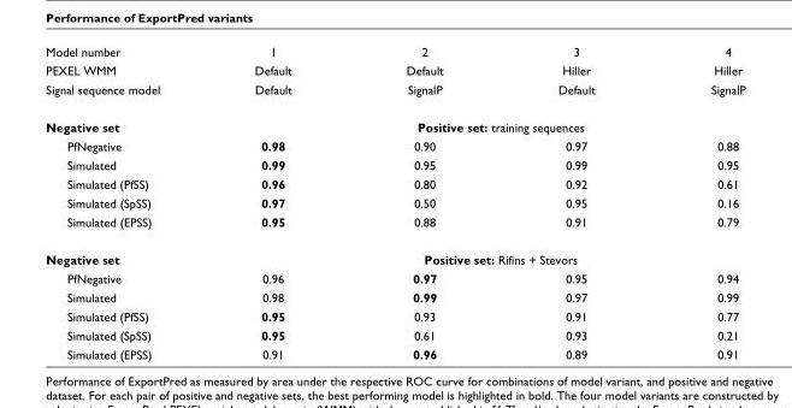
<table><tbody><tr><td>Model number</td><td>1</td><td>2</td><td>3</td><td>4</td></tr><tr><td>PEXEL WMM</td><td>Default</td><td>Default</td><td>Hiller</td><td>Hiller</td></tr><tr><td>Signal sequence model</td><td>Default</td><td>SignalP</td><td>Default</td><td>SignalP</td></tr><tr><td>Negative set</td><td colspan="4">Positive set: training sequences</td></tr><tr><td>PfNegative</td><td>0.98</td><td>0.90</td><td>0.97</td><td>0.88</td></tr><tr><td>Simulated</td><td>0.99</td><td>0.95</td><td>0.99</td><td>0.95</td></tr><tr><td>Simulated (PfSS)</td><td>0.96</td><td>0.80</td><td>0.92</td><td>0.61</td></tr><tr><td>Simulated (SpSS)</td><td>0.97</td><td>0.50</td><td>0.95</td><td>0.16</td></tr><tr><td>Simulated (EPSS)</td><td>0.95</td><td>0.88</td><td>0.91</td><td>0.79</td></tr><tr><td>Negative set</td><td colspan="4">Positive set: Rifins + Stevors</td></tr><tr><td>PfNegative</td><td>0.96</td><td>0.97</td><td>0.95</td><td>0.94</td></tr><tr><td>Simulated</td><td>0.98</td><td>0.99</td><td>0.97</td><td>0.99</td></tr><tr><td>Simulated (PfSS)</td><td>0.95</td><td>0.93</td><td>0.91</td><td>0.77</td></tr><tr><td>Simulated (SpSS)</td><td>0.95</td><td>0.61</td><td>0.93</td><td>0.21</td></tr><tr><td>Simulated (EPSS)</td><td>0.91</td><td>0.96</td><td>0.89</td><td>0.91</td></tr></tbody></table>